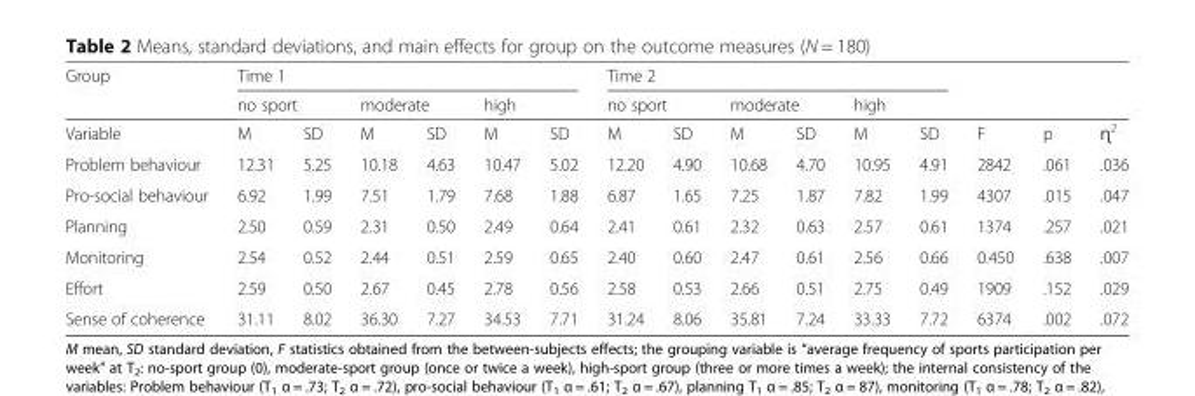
<table><thead><tr><td rowspan="3">Group Variable</td><td colspan="6">Time 1</td><td colspan="6">Time 2</td><td rowspan="3">F</td><td rowspan="3">p</td><td rowspan="3">ɳ<sup>2</sup></td></tr><tr><td colspan="2">no sport</td><td colspan="2">moderate</td><td colspan="2">high</td><td colspan="2">no sport</td><td colspan="2">moderate</td><td colspan="2">high</td></tr><tr><td>M</td><td>SD</td><td>M</td><td>SD</td><td>M</td><td>SD</td><td>M</td><td>SD</td><td>M</td><td>SD</td><td>M</td><td>SD</td></tr></thead><tbody><tr><td>Problem behaviour</td><td>12.31</td><td>5.25</td><td>10.18</td><td>4.63</td><td>10.47</td><td>5.02</td><td>12.20</td><td>4.90</td><td>10.68</td><td>4.70</td><td>10.95</td><td>4.91</td><td>2842</td><td>.061</td><td>.036</td></tr><tr><td>Pro-social behaviour</td><td>6.92</td><td>1.99</td><td>7.51</td><td>1.79</td><td>7.68</td><td>1.88</td><td>6.87</td><td>1.65</td><td>7.25</td><td>1.87</td><td>7.82</td><td>1.99</td><td>4307</td><td>.015</td><td>.047</td></tr><tr><td>Planning</td><td>2.50</td><td>0.59</td><td>2.31</td><td>0.50</td><td>2.49</td><td>0.64</td><td>2.41</td><td>0.61</td><td>2.32</td><td>0.63</td><td>2.57</td><td>0.61</td><td>1374</td><td>.257</td><td>.021</td></tr><tr><td>Monitoring</td><td>2.54</td><td>0.52</td><td>2.44</td><td>0.51</td><td>2.59</td><td>0.65</td><td>2.40</td><td>0.60</td><td>2.47</td><td>0.61</td><td>2.56</td><td>0.66</td><td>0.450</td><td>.638</td><td>.007</td></tr><tr><td>Effort</td><td>2.59</td><td>0.50</td><td>2.67</td><td>0.45</td><td>2.78</td><td>0.56</td><td>2.58</td><td>0.53</td><td>2.66</td><td>0.51</td><td>2.75</td><td>0.49</td><td>1909</td><td>.152</td><td>.029</td></tr><tr><td>Sense of coherence</td><td>31.11</td><td>8.02</td><td>36.30</td><td>7.27</td><td>34.53</td><td>7.71</td><td>31.24</td><td>8.06</td><td>35.81</td><td>7.24</td><td>33.33</td><td>7.72</td><td>6374</td><td>.002</td><td>.072</td></tr></tbody></table>